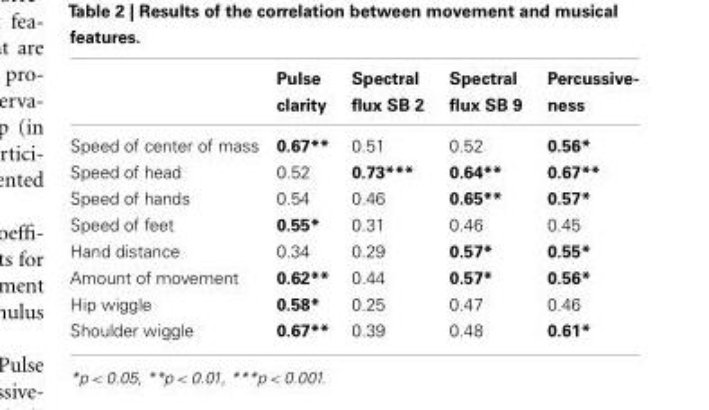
<table><thead><tr><td></td><td>Pulse clarity</td><td>Spectral flux SB 2</td><td>Spectral flux SB 9</td><td>Percussive- ness</td></tr></thead><tbody><tr><td>Speed of center of mass</td><td>0.67**</td><td>0.51</td><td>0.52</td><td>0.56*</td></tr><tr><td>Speed of head</td><td>0.52</td><td>0.73***</td><td>0.64**</td><td>0.67**</td></tr><tr><td>Speed of hands</td><td>0.54</td><td>0.46</td><td>0.65**</td><td>0.57*</td></tr><tr><td>Speed of feet</td><td>0.55*</td><td>0.31</td><td>0.46</td><td>0.45</td></tr><tr><td>Hand distance</td><td>0.34</td><td>0.29</td><td>0.57*</td><td>0.55*</td></tr><tr><td>Amount of movement</td><td>0.62**</td><td>0.44</td><td>0.57*</td><td>0.56*</td></tr><tr><td>Hip wiggle</td><td>0.58*</td><td>0.25</td><td>0.47</td><td>0.46</td></tr><tr><td>Shoulder wiggle</td><td>0.67**</td><td>0.39</td><td>0.48</td><td>0.61*</td></tr></tbody></table>